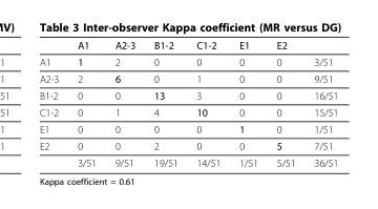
<table><thead><tr><td></td><td>A1</td><td>A2-3</td><td>B1-2</td><td>C1-2</td><td>E1</td><td>E2</td><td></td></tr></thead><tbody><tr><td>A1</td><td>1</td><td>2</td><td>0</td><td>0</td><td>0</td><td>0</td><td>3/51</td></tr><tr><td>A2-3</td><td>2</td><td>6</td><td>0</td><td>1</td><td>0</td><td>0</td><td>9/51</td></tr><tr><td>B1-2</td><td>0</td><td>0</td><td>13</td><td>3</td><td>0</td><td>0</td><td>16/51</td></tr><tr><td>C1-2</td><td>0</td><td>1</td><td>4</td><td>10</td><td>0</td><td>0</td><td>15/51</td></tr><tr><td>E1</td><td>0</td><td>0</td><td>0</td><td>0</td><td>1</td><td>0</td><td>1/51</td></tr><tr><td rowspan="2">E2</td><td>0</td><td>0</td><td>2</td><td>0</td><td>0</td><td>5</td><td>7/51</td></tr><tr><td>3/51</td><td>9/51</td><td>19/51</td><td>14/51</td><td>1/51</td><td>5/51</td><td>36/51</td></tr></tbody></table>